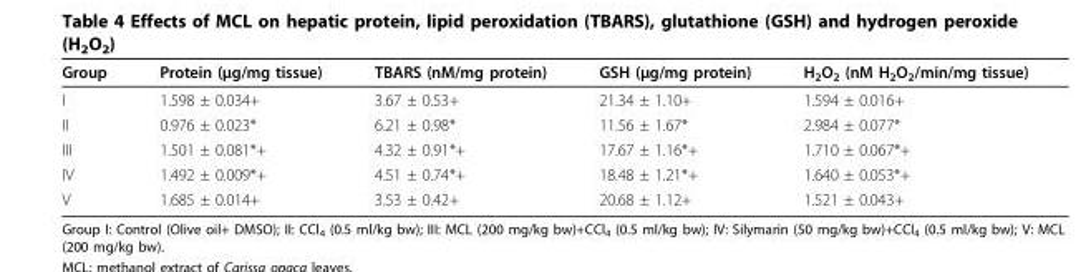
<table><thead><tr><td>Group</td><td>Protein (μg/mg tissue)</td><td>TBARS (nM/mg protein)</td><td>GSH (μg/mg protein)</td><td>H<sub>2</sub>O<sub>2</sub> (nM H<sub>2</sub>O<sub>2</sub>/min/mg tissue)</td></tr></thead><tbody><tr><td>I</td><td>1.598 ± 0.034+</td><td>3.67 ± 0.53+</td><td>21.34 ± 1.10+</td><td>1.594 ± 0.016+</td></tr><tr><td>II</td><td>0.976 ± 0.023*</td><td>6.21 ± 0.98*</td><td>11.56 ± 1.67*</td><td>2.984 ± 0.077*</td></tr><tr><td>III</td><td>1.501 ± 0.081*+</td><td>4.32 ± 0.91*+</td><td>17.67 ± 1.16*+</td><td>1.710 ± 0.067*+</td></tr><tr><td>IV</td><td>1.492 ± 0.009*+</td><td>4.51 ± 0.74*+</td><td>18.48 ± 1.21*+</td><td>1.640 ± 0.053*+</td></tr><tr><td>V</td><td>1.685 ± 0.014+</td><td>3.53 ± 0.42+</td><td>20.68 ± 1.12+</td><td>1.521 ± 0.043+</td></tr></tbody></table>